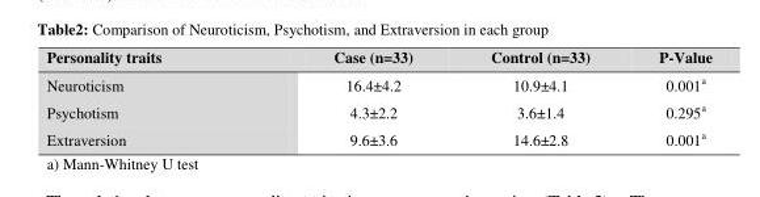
<table><thead><tr><td>Personality traits</td><td>Case (n=33)</td><td>Control (n=33)</td><td>P-Value</td></tr></thead><tbody><tr><td>Neuroticism</td><td>16.4±4.2</td><td>10.9±4.1</td><td>0.001<sup>a</sup></td></tr><tr><td>Psychotism</td><td>4.3±2.2</td><td>3.6±1.4</td><td>0.295<sup>a</sup></td></tr><tr><td>Extraversion</td><td>9.6±3.6</td><td>14.6±2.8</td><td>0.001<sup>a</sup></td></tr></tbody></table>